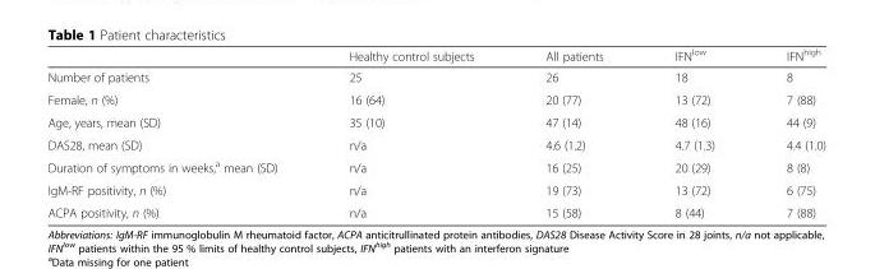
<table><thead><tr><td></td><td>Healthy control subjects</td><td>All patients</td><td>IFN<sup>low</sup></td><td>IFN<sup>high</sup></td></tr></thead><tbody><tr><td>Number of patients</td><td>25</td><td>26</td><td>18</td><td>8</td></tr><tr><td>Female, n (%)</td><td>16 (64)</td><td>20 (77)</td><td>13 (72)</td><td>7 (88)</td></tr><tr><td>Age, years, mean (SD)</td><td>35 (10)</td><td>47 (14)</td><td>48 (16)</td><td>44 (9)</td></tr><tr><td>DAS28, mean (SD)</td><td>n/a</td><td>4.6 (1.2)</td><td>4.7 (1.3)</td><td>4.4 (1.0)</td></tr><tr><td>Duration of symptoms in weeks,<sup>a</sup> mean (SD)</td><td>n/a</td><td>16 (25)</td><td>20 (29)</td><td>8 (8)</td></tr><tr><td>IgM-RF positivity, n (%)</td><td>n/a</td><td>19 (73)</td><td>13 (72)</td><td>6 (75)</td></tr><tr><td>ACPA positivity, n (%)</td><td>n/a</td><td>15 (58)</td><td>8 (44)</td><td>7 (88)</td></tr></tbody></table>